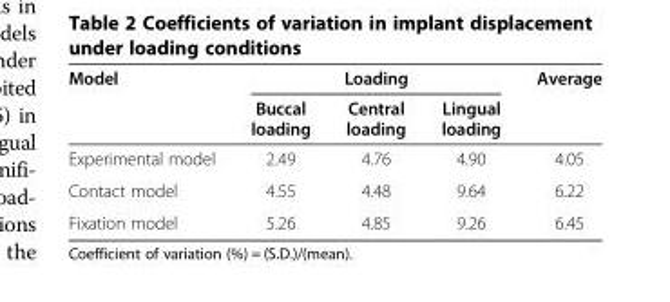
<table><thead><tr><td rowspan="2">Model</td><td colspan="3">Loading</td><td rowspan="2">Average</td></tr><tr><td>Buccal loading</td><td>Central loading</td><td>Lingual loading</td></tr></thead><tbody><tr><td>Experimental model</td><td>2.49</td><td>4.76</td><td>4.90</td><td>4.05</td></tr><tr><td>Contact model</td><td>4.55</td><td>4.48</td><td>9.64</td><td>6.22</td></tr><tr><td>Fixation model</td><td>5.26</td><td>4.85</td><td>9.26</td><td>6.45</td></tr></tbody></table>